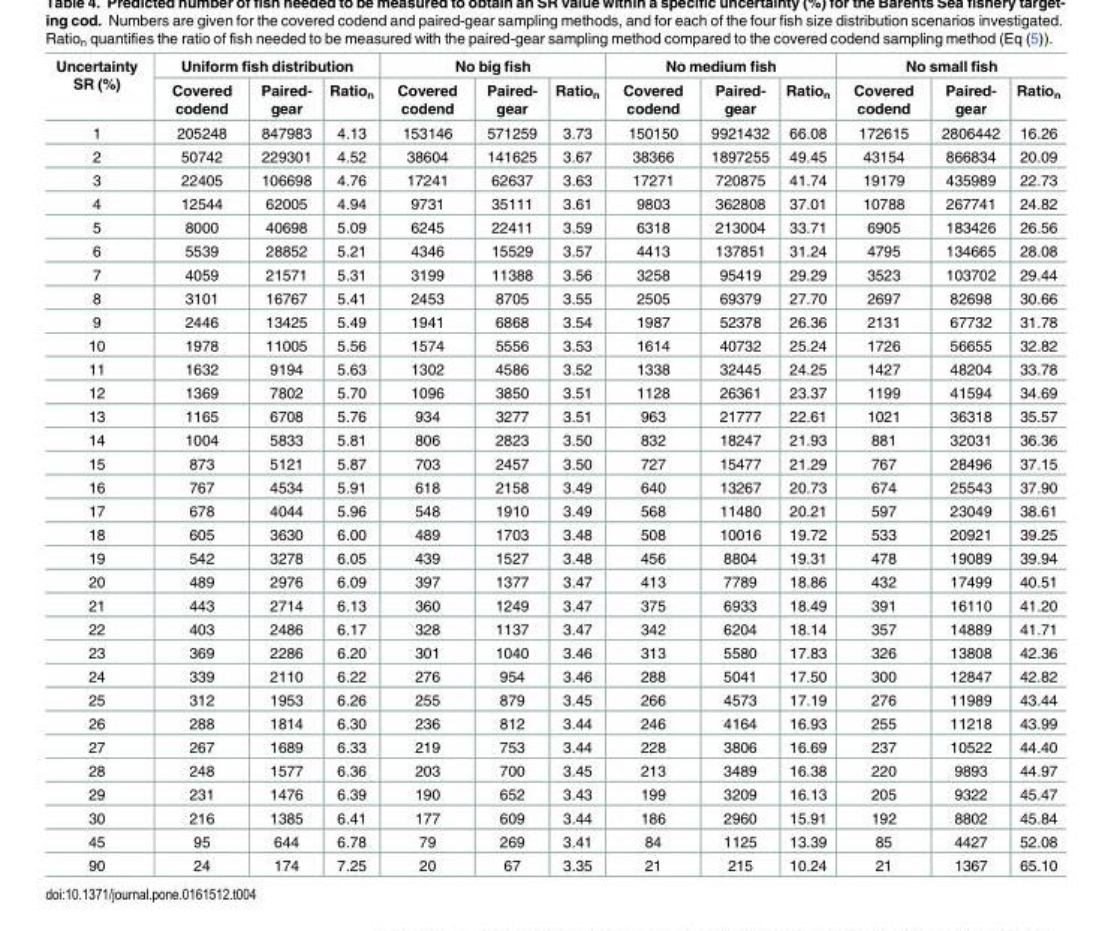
<table><thead><tr><td rowspan="2">Uncertainty SR (%)</td><td colspan="3">Uniform fish distribution</td><td colspan="3">No big fish</td><td colspan="3">No medium fish</td><td colspan="3">No small fish</td></tr><tr><td>Covered codend</td><td>Paired- gear</td><td>Ratio<sub>n</sub></td><td>Covered codend</td><td>Paired- gear</td><td>Ratio<sub>n</sub></td><td>Covered codend</td><td>Paired- gear</td><td>Ratio<sub>n</sub></td><td>Covered codend</td><td>Paired- gear</td><td>Ratio<sub>n</sub></td></tr></thead><tbody><tr><td>1</td><td>205248</td><td>847983</td><td>4.13</td><td>153146</td><td>571259</td><td>3.73</td><td>150150</td><td>9921432</td><td>66.08</td><td>172615</td><td>2806442</td><td>16.26</td></tr><tr><td>2</td><td>50742</td><td>229301</td><td>4.52</td><td>38604</td><td>141625</td><td>3.67</td><td>38366</td><td>1897255</td><td>49.45</td><td>43154</td><td>866834</td><td>20.09</td></tr><tr><td>3</td><td>22405</td><td>106698</td><td>4.76</td><td>17241</td><td>62637</td><td>3.63</td><td>17271</td><td>720875</td><td>41.74</td><td>19179</td><td>435989</td><td>22.73</td></tr><tr><td>4</td><td>12544</td><td>62005</td><td>4.94</td><td>9731</td><td>35111</td><td>3.61</td><td>9803</td><td>362808</td><td>37.01</td><td>10788</td><td>267741</td><td>24.82</td></tr><tr><td>5</td><td>8000</td><td>40698</td><td>5.09</td><td>6245</td><td>22411</td><td>3.59</td><td>6318</td><td>213004</td><td>33.71</td><td>6905</td><td>183426</td><td>26.56</td></tr><tr><td>6</td><td>5539</td><td>28852</td><td>5.21</td><td>4346</td><td>15529</td><td>3.57</td><td>4413</td><td>137851</td><td>31.24</td><td>4795</td><td>134665</td><td>28.08</td></tr><tr><td>7</td><td>4059</td><td>21571</td><td>5.31</td><td>3199</td><td>11388</td><td>3.56</td><td>3258</td><td>95419</td><td>29.29</td><td>3523</td><td>103702</td><td>29.44</td></tr><tr><td>8</td><td>3101</td><td>16767</td><td>5.41</td><td>2453</td><td>8705</td><td>3.55</td><td>2505</td><td>69379</td><td>27.70</td><td>2697</td><td>82698</td><td>30.66</td></tr><tr><td>9</td><td>2446</td><td>13425</td><td>5.49</td><td>1941</td><td>6868</td><td>3.54</td><td>1987</td><td>52378</td><td>26.36</td><td>2131</td><td>67732</td><td>31.78</td></tr><tr><td>10</td><td>1978</td><td>11005</td><td>5.56</td><td>1574</td><td>5556</td><td>3.53</td><td>1614</td><td>40732</td><td>25.24</td><td>1726</td><td>56655</td><td>32.82</td></tr><tr><td>11</td><td>1632</td><td>9194</td><td>5.63</td><td>1302</td><td>4586</td><td>3.52</td><td>1338</td><td>32445</td><td>24.25</td><td>1427</td><td>48204</td><td>33.78</td></tr><tr><td>12</td><td>1369</td><td>7802</td><td>5.70</td><td>1096</td><td>3850</td><td>3.51</td><td>1128</td><td>26361</td><td>23.37</td><td>1199</td><td>41594</td><td>34.69</td></tr><tr><td>13</td><td>1165</td><td>6708</td><td>5.76</td><td>934</td><td>3277</td><td>3.51</td><td>963</td><td>21777</td><td>22.61</td><td>1021</td><td>36318</td><td>35.57</td></tr><tr><td>14</td><td>1004</td><td>5833</td><td>5.81</td><td>806</td><td>2823</td><td>3.50</td><td>832</td><td>18247</td><td>21.93</td><td>881</td><td>32031</td><td>36.36</td></tr><tr><td>15</td><td>873</td><td>5121</td><td>5.87</td><td>703</td><td>2457</td><td>3.50</td><td>727</td><td>15477</td><td>21.29</td><td>767</td><td>28496</td><td>37.15</td></tr><tr><td>16</td><td>767</td><td>4534</td><td>5.91</td><td>618</td><td>2158</td><td>3.49</td><td>640</td><td>13267</td><td>20.73</td><td>674</td><td>25543</td><td>37.90</td></tr><tr><td>17</td><td>678</td><td>4044</td><td>5.96</td><td>548</td><td>1910</td><td>3.49</td><td>568</td><td>11480</td><td>20.21</td><td>597</td><td>23049</td><td>38.61</td></tr><tr><td>18</td><td>605</td><td>3630</td><td>6.00</td><td>489</td><td>1703</td><td>3.48</td><td>508</td><td>10016</td><td>19.72</td><td>533</td><td>20921</td><td>39.25</td></tr><tr><td>19</td><td>542</td><td>3278</td><td>6.05</td><td>439</td><td>1527</td><td>3.48</td><td>456</td><td>8804</td><td>19.31</td><td>478</td><td>19089</td><td>39.94</td></tr><tr><td>20</td><td>489</td><td>2976</td><td>6.09</td><td>397</td><td>1377</td><td>3.47</td><td>413</td><td>7789</td><td>18.86</td><td>432</td><td>17499</td><td>40.51</td></tr><tr><td>21</td><td>443</td><td>2714</td><td>6.13</td><td>360</td><td>1249</td><td>3.47</td><td>375</td><td>6933</td><td>18.49</td><td>391</td><td>16110</td><td>41.20</td></tr><tr><td>22</td><td>403</td><td>2486</td><td>6.17</td><td>328</td><td>1137</td><td>3.47</td><td>342</td><td>6204</td><td>18.14</td><td>357</td><td>14889</td><td>41.71</td></tr><tr><td>23</td><td>369</td><td>2286</td><td>6.20</td><td>301</td><td>1040</td><td>3.46</td><td>313</td><td>5580</td><td>17.83</td><td>326</td><td>13808</td><td>42.36</td></tr><tr><td>24</td><td>339</td><td>2110</td><td>6.22</td><td>276</td><td>954</td><td>3.46</td><td>288</td><td>5041</td><td>17.50</td><td>300</td><td>12847</td><td>42.82</td></tr><tr><td>25</td><td>312</td><td>1953</td><td>6.26</td><td>255</td><td>879</td><td>3.45</td><td>266</td><td>4573</td><td>17.19</td><td>276</td><td>11989</td><td>43.44</td></tr><tr><td>26</td><td>288</td><td>1814</td><td>6.30</td><td>236</td><td>812</td><td>3.44</td><td>246</td><td>4164</td><td>16.93</td><td>255</td><td>11218</td><td>43.99</td></tr><tr><td>27</td><td>267</td><td>1689</td><td>6.33</td><td>219</td><td>753</td><td>3.44</td><td>228</td><td>3806</td><td>16.69</td><td>237</td><td>10522</td><td>44.40</td></tr><tr><td>28</td><td>248</td><td>1577</td><td>6.36</td><td>203</td><td>700</td><td>3.45</td><td>213</td><td>3489</td><td>16.38</td><td>220</td><td>9893</td><td>44.97</td></tr><tr><td>29</td><td>231</td><td>1476</td><td>6.39</td><td>190</td><td>652</td><td>3.43</td><td>199</td><td>3209</td><td>16.13</td><td>205</td><td>9322</td><td>45.47</td></tr><tr><td>30</td><td>216</td><td>1385</td><td>6.41</td><td>177</td><td>609</td><td>3.44</td><td>186</td><td>2960</td><td>15.91</td><td>192</td><td>8802</td><td>45.84</td></tr><tr><td>45</td><td>95</td><td>644</td><td>6.78</td><td>79</td><td>269</td><td>3.41</td><td>84</td><td>1125</td><td>13.39</td><td>85</td><td>4427</td><td>52.08</td></tr><tr><td>90</td><td>24</td><td>174</td><td>7.25</td><td>20</td><td>67</td><td>3.35</td><td>21</td><td>215</td><td>10.24</td><td>21</td><td>1367</td><td>65.10</td></tr></tbody></table>